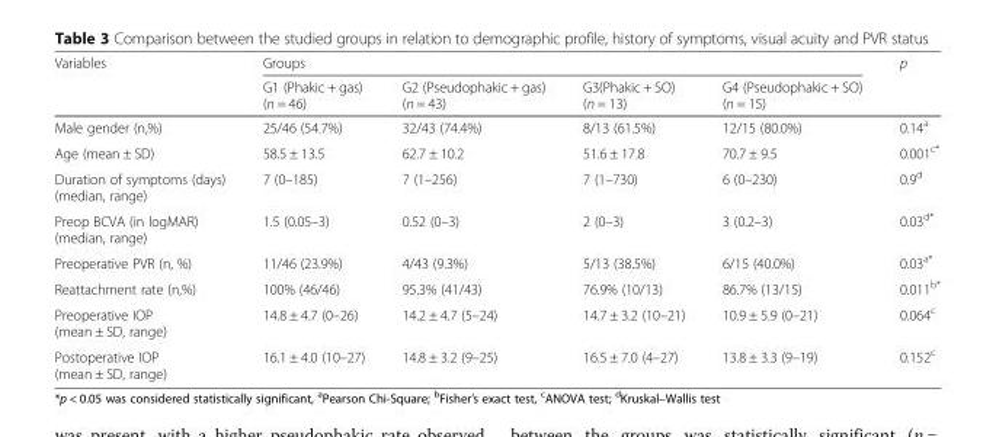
<table><thead><tr><td rowspan="2">Variables</td><td colspan="4">Groups</td><td rowspan="2">p</td></tr><tr><td>G1 (Phakic + gas) (n = 46)</td><td>G2 (Pseudophakic + gas) (n = 43)</td><td>G3(Phakic + SO) (n = 13)</td><td>G4 (Pseudophakic + SO) (n = 15)</td></tr></thead><tbody><tr><td>Male gender (n,%)</td><td>25/46 (54.7%)</td><td>32/43 (74.4%)</td><td>8/13 (61.5%)</td><td>12/15 (80.0%)</td><td>0.14<sup>a</sup></td></tr><tr><td>Age (mean ± SD)</td><td>58.5 ± 13.5</td><td>62.7 ± 10.2</td><td>51.6 ± 17.8</td><td>70.7 ± 9.5</td><td>0.001<sup>c*</sup></td></tr><tr><td>Duration of symptoms (days) (median, range)</td><td>7 (0–185)</td><td>7 (1–256)</td><td>7 (1–730)</td><td>6 (0–230)</td><td>0.9<sup>d</sup></td></tr><tr><td>Preop BCVA (in logMAR) (median, range)</td><td>1.5 (0.05–3)</td><td>0.52 (0–3)</td><td>2 (0–3)</td><td>3 (0.2–3)</td><td>0.03<sup>d*</sup></td></tr><tr><td>Preoperative PVR (n, %)</td><td>11/46 (23.9%)</td><td>4/43 (9.3%)</td><td>5/13 (38.5%)</td><td>6/15 (40.0%)</td><td>0.03<sup>a*</sup></td></tr><tr><td>Reattachment rate (n,%)</td><td>100% (46/46)</td><td>95.3% (41/43)</td><td>76.9% (10/13)</td><td>86.7% (13/15)</td><td>0.011<sup>b*</sup></td></tr><tr><td>Preoperative IOP (mean ± SD, range)</td><td>14.8 ± 4.7 (0–26)</td><td>14.2 ± 4.7 (5–24)</td><td>14.7 ± 3.2 (10–21)</td><td>10.9 ± 5.9 (0–21)</td><td>0.064<sup>c</sup></td></tr><tr><td>Postoperative IOP (mean ± SD, range)</td><td>16.1 ± 4.0 (10–27)</td><td>14.8 ± 3.2 (9–25)</td><td>16.5 ± 7.0 (4–27)</td><td>13.8 ± 3.3 (9–19)</td><td>0.152<sup>c</sup></td></tr></tbody></table>